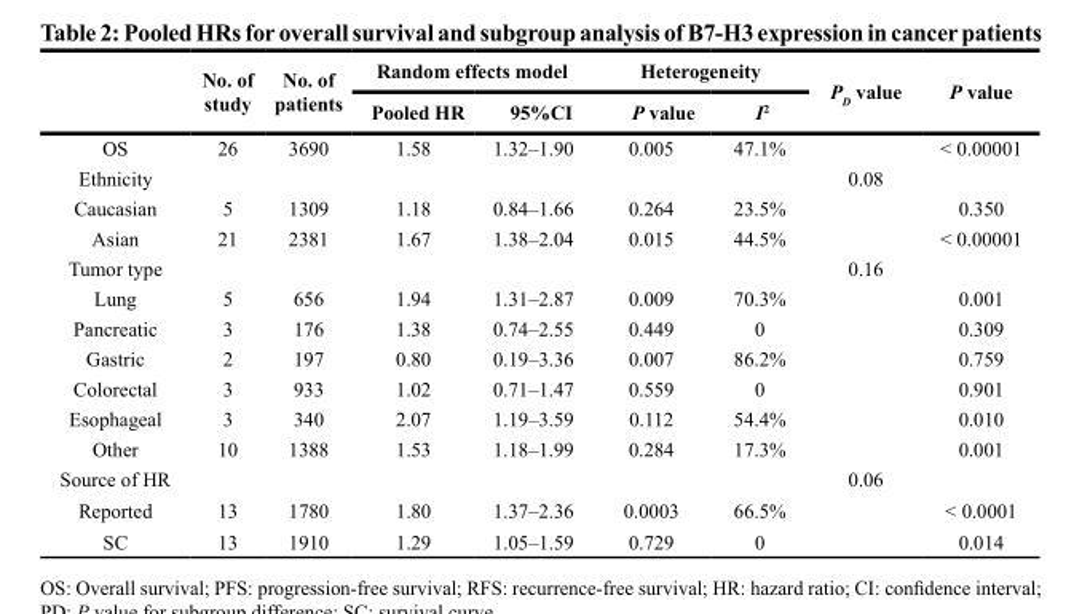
<table><thead><tr><td rowspan="2"></td><td rowspan="2">No. of study</td><td rowspan="2">No. of patients</td><td colspan="2">Random effects model</td><td colspan="2">Heterogeneity</td><td rowspan="2">P<sub>D</sub> value</td><td rowspan="2">P value</td></tr><tr><td>Pooled HR</td><td>95%CI</td><td>P value</td><td>I<sup>2</sup></td></tr></thead><tbody><tr><td>OS</td><td>26</td><td>3690</td><td>1.58</td><td>1.32–1.90</td><td>0.005</td><td>47.1%</td><td></td><td>&lt; 0.00001</td></tr><tr><td>Ethnicity</td><td></td><td></td><td></td><td></td><td></td><td></td><td>0.08</td><td></td></tr><tr><td>Caucasian</td><td>5</td><td>1309</td><td>1.18</td><td>0.84–1.66</td><td>0.264</td><td>23.5%</td><td></td><td>0.350</td></tr><tr><td>Asian</td><td>21</td><td>2381</td><td>1.67</td><td>1.38–2.04</td><td>0.015</td><td>44.5%</td><td></td><td>&lt; 0.00001</td></tr><tr><td>Tumor type</td><td></td><td></td><td></td><td></td><td></td><td></td><td>0.16</td><td></td></tr><tr><td>Lung</td><td>5</td><td>656</td><td>1.94</td><td>1.31–2.87</td><td>0.009</td><td>70.3%</td><td></td><td>0.001</td></tr><tr><td>Pancreatic</td><td>3</td><td>176</td><td>1.38</td><td>0.74–2.55</td><td>0.449</td><td>0</td><td></td><td>0.309</td></tr><tr><td>Gastric</td><td>2</td><td>197</td><td>0.80</td><td>0.19–3.36</td><td>0.007</td><td>86.2%</td><td></td><td>0.759</td></tr><tr><td>Colorectal</td><td>3</td><td>933</td><td>1.02</td><td>0.71–1.47</td><td>0.559</td><td>0</td><td></td><td>0.901</td></tr><tr><td>Esophageal</td><td>3</td><td>340</td><td>2.07</td><td>1.19–3.59</td><td>0.112</td><td>54.4%</td><td></td><td>0.010</td></tr><tr><td>Other</td><td>10</td><td>1388</td><td>1.53</td><td>1.18–1.99</td><td>0.284</td><td>17.3%</td><td></td><td>0.001</td></tr><tr><td>Source of HR</td><td></td><td></td><td></td><td></td><td></td><td></td><td>0.06</td><td></td></tr><tr><td>Reported</td><td>13</td><td>1780</td><td>1.80</td><td>1.37–2.36</td><td>0.0003</td><td>66.5%</td><td></td><td>&lt; 0.0001</td></tr><tr><td>SC</td><td>13</td><td>1910</td><td>1.29</td><td>1.05–1.59</td><td>0.729</td><td>0</td><td></td><td>0.014</td></tr></tbody></table>